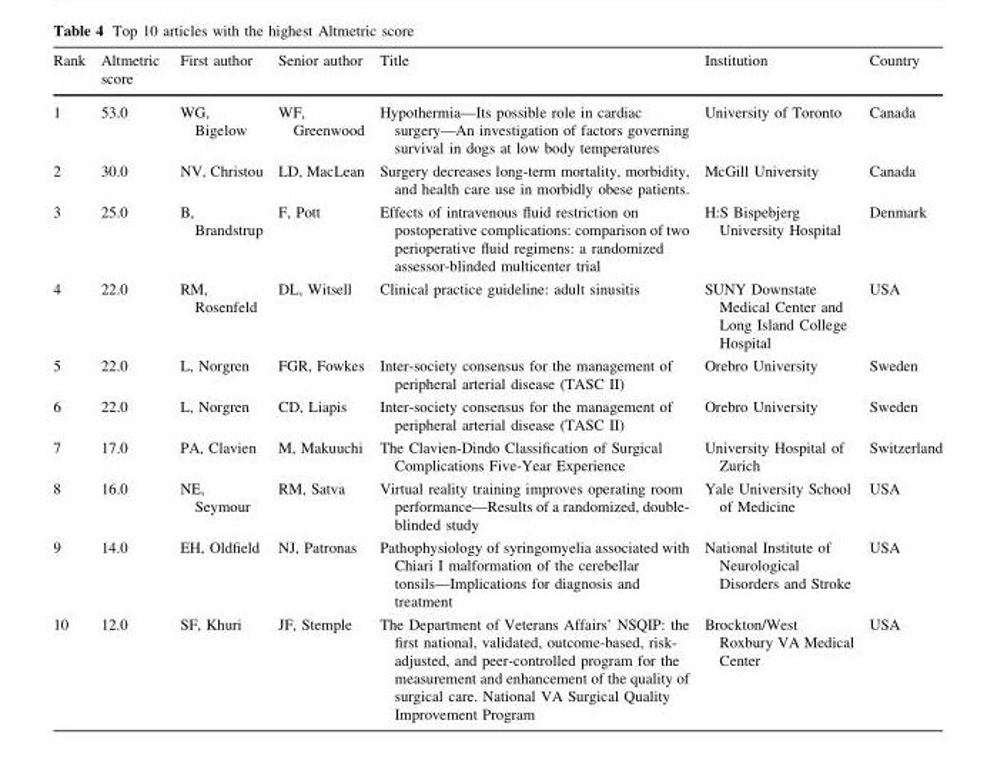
<table><thead><tr><td>Rank</td><td>Altmetric score</td><td>First author</td><td>Senior author</td><td>Title</td><td>Institution</td><td>Country</td></tr></thead><tbody><tr><td>1</td><td>53.0</td><td>WG, Bigelow</td><td>WF, Greenwood</td><td>Hypothermia—Its possible role in cardiac surgery—An investigation of factors governing survival in dogs at low body temperatures</td><td>University of Toronto</td><td>Canada</td></tr><tr><td>2</td><td>30.0</td><td>NV, Christou</td><td>LD, MacLean</td><td>Surgery decreases long-term mortality, morbidity, and health care use in morbidly obese patients.</td><td>McGill University</td><td>Canada</td></tr><tr><td>3</td><td>25.0</td><td>B, Brandstrup</td><td>F, Pott</td><td>Effects of intravenous fluid restriction on postoperative complications: comparison of two perioperative fluid regimens: a randomized assessor-blinded multicenter trial</td><td>H:S Bispebjerg University Hospital</td><td>Denmark</td></tr><tr><td>4</td><td>22.0</td><td>RM, Rosenfeld</td><td>DL, Witsell</td><td>Clinical practice guideline: adult sinusitis</td><td>SUNY Downstate Medical Center and Long Island College Hospital</td><td>USA</td></tr><tr><td>5</td><td>22.0</td><td>L, Norgren</td><td>FGR, Fowkes</td><td>Inter-society consensus for the management of peripheral arterial disease (TASC II)</td><td>Orebro University</td><td>Sweden</td></tr><tr><td>6</td><td>22.0</td><td>L, Norgren</td><td>CD, Liapis</td><td>Inter-society consensus for the management of peripheral arterial disease (TASC II)</td><td>Orebro University</td><td>Sweden</td></tr><tr><td>7</td><td>17.0</td><td>PA, Clavien</td><td>M, Makuuchi</td><td>The Clavien-Dindo Classification of Surgical Complications Five-Year Experience</td><td>University Hospital of Zurich</td><td>Switzerland</td></tr><tr><td>8</td><td>16.0</td><td>NE, Seymour</td><td>RM, Satva</td><td>Virtual reality training improves operating room performance—Results of a randomized, double- blinded study</td><td>Yale University School of Medicine</td><td>USA</td></tr><tr><td>9</td><td>14.0</td><td>EH, Oldfield</td><td>NJ, Patronas</td><td>Pathophysiology of syringomyelia associated with Chiari I malformation of the cerebellar tonsils—Implications for diagnosis and treatment</td><td>National Institute of Neurological Disorders and Stroke</td><td>USA</td></tr><tr><td>10</td><td>12.0</td><td>SF, Khuri</td><td>JF, Stemple</td><td>The Department of Veterans Affairs’ NSQIP: the first national, validated, outcome-based, risk- adjusted, and peer-controlled program for the measurement and enhancement of the quality of surgical care. National VA Surgical Quality Improvement Program</td><td>Brockton/West Roxbury VA Medical Center</td><td>USA</td></tr></tbody></table>